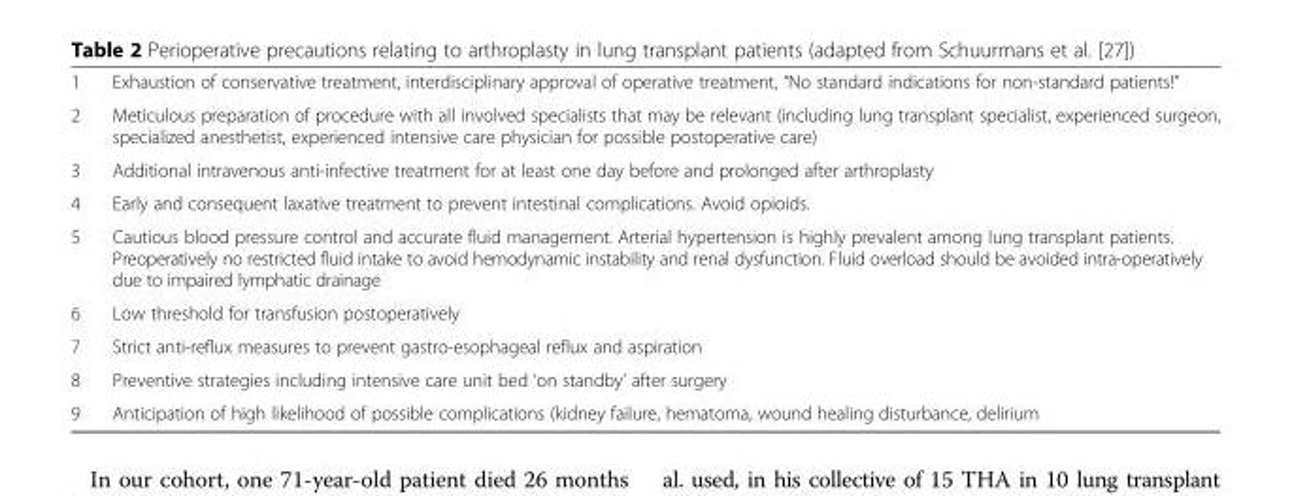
<table><tbody><tr><td>1</td><td>Exhaustion of conservative treatment, interdisciplinary approval of operative treatment, “No standard indications for non-standard patients!”</td></tr><tr><td>2</td><td>Meticulous preparation of procedure with all involved specialists that may be relevant (including lung transplant specialist, experienced surgeon, specialized anesthetist, experienced intensive care physician for possible postoperative care)</td></tr><tr><td>3</td><td>Additional intravenous anti-infective treatment for at least one day before and prolonged after arthroplasty</td></tr><tr><td>4</td><td>Early and consequent laxative treatment to prevent intestinal complications. Avoid opioids.</td></tr><tr><td>5</td><td>Cautious blood pressure control and accurate fluid management. Arterial hypertension is highly prevalent among lung transplant patients. Preoperatively no restricted fluid intake to avoid hemodynamic instability and renal dysfunction. Fluid overload should be avoided intra-operatively due to impaired lymphatic drainage</td></tr><tr><td>6</td><td>Low threshold for transfusion postoperatively</td></tr><tr><td>7</td><td>Strict anti-reflux measures to prevent gastro-esophageal reflux and aspiration</td></tr><tr><td>8</td><td>Preventive strategies including intensive care unit bed ‘on standby’ after surgery</td></tr><tr><td>9</td><td>Anticipation of high likelihood of possible complications (kidney failure, hematoma, wound healing disturbance, delirium</td></tr></tbody></table>